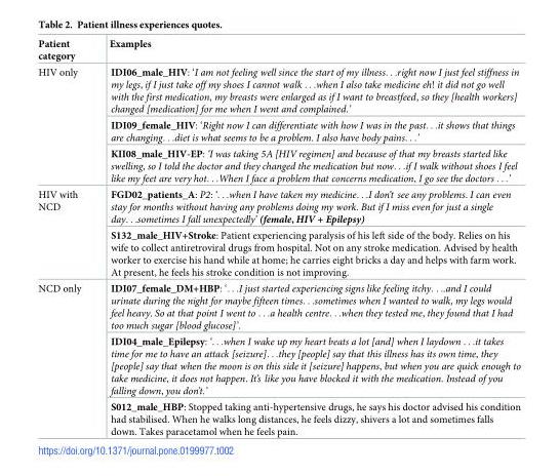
<table><thead><tr><td>Patient category</td><td>Examples</td></tr></thead><tbody><tr><td rowspan="3">HIV only</td><td>IDI06_male_HIV: ‘I am not feeling well since the start of my illness. . .right now I just feel stiffness in my legs, if I just take off my shoes I cannot walk . . .when I also take medicine eh! it did not go well with the first medication, my breasts were enlarged as if I want to breastfeed, so they [health workers] changed [medication] for me when I went and complained.’</td></tr><tr><td>IDI09_female_HIV: ‘Right now I can differentiate with how I was in the past. . .it shows that things are changing. . .diet is what seems to be a problem. I also have body pains. . .’</td></tr><tr><td>KII08_male_HIV-EP: ‘I was taking 5A [HIV regimen] and because of that my breasts started like swelling, so I told the doctor and they changed the medication but now. . .if I walk without shoes I feel like my feet are very hot. . .When I face a problem that concerns medication, I go see the doctors . . .’</td></tr><tr><td rowspan="2">HIV with NCD</td><td>FGD02_patients_A: P2: ‘. . .when I have taken my medicine. . .I don’t see any problems. I can even stay for months without having any problems doing my work. But if I miss even for just a single day. . .sometimes I fall unexpectedly’ (female, HIV + Epilepsy)</td></tr><tr><td>S132_male_HIV+Stroke: Patient experiencing paralysis of his left side of the body. Relies on his wife to collect antiretroviral drugs from hospital. Not on any stroke medication. Advised by health worker to exercise his hand while at home; he carries eight bricks a day and helps with farm work. At present, he feels his stroke condition is not improving.</td></tr><tr><td rowspan="3">NCD only</td><td>IDI07_female_DM+HBP: ‘. . .I just started experiencing signs like feeling itchy. . ..and I could urinate during the night for maybe fifteen times. . .sometimes when I wanted to walk, my legs would feel heavy. So at that point I went to . . .a health centre. . .when they tested me, they found that I had too much sugar [blood glucose]’.</td></tr><tr><td>IDI04_male_Epilepsy: ‘. . .when I wake up my heart beats a lot [and] when I laydown . . .it takes time for me to have an attack [seizure]. . .they [people] say that this illness has its own time, they [people] say that when the moon is on this side it [seizure] happens, but when you are quick enough to take medicine, it does not happen. It’s like you have blocked it with the medication. Instead of you falling down, you don’t.’</td></tr><tr><td>S012_male_HBP: Stopped taking anti-hypertensive drugs, he says his doctor advised his condition had stabilised. When he walks long distances, he feels dizzy, shivers a lot and sometimes falls down. Takes paracetamol when he feels pain.</td></tr></tbody></table>